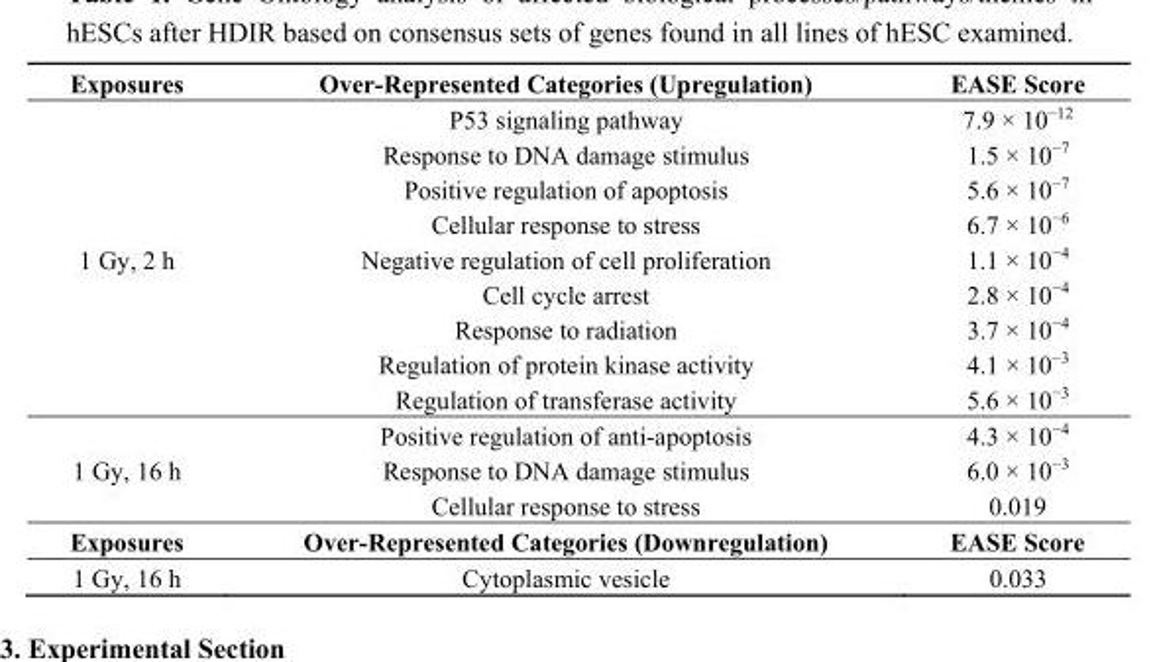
<table><thead><tr><td>Exposures</td><td>Over-Represented Categories (Upregulation)</td><td>EASE Score</td></tr></thead><tbody><tr><td rowspan="9">1 Gy, 2 h</td><td>P53 signaling pathway</td><td>7.9 × 10<sup>−12</sup></td></tr><tr><td>Response to DNA damage stimulus</td><td>1.5 × 10<sup>−7</sup></td></tr><tr><td>Positive regulation of apoptosis</td><td>5.6 × 10<sup>−7</sup></td></tr><tr><td>Cellular response to stress</td><td>6.7 × 10<sup>−6</sup></td></tr><tr><td>Negative regulation of cell proliferation</td><td>1.1 × 10<sup>−4</sup></td></tr><tr><td>Cell cycle arrest</td><td>2.8 × 10<sup>−4</sup></td></tr><tr><td>Response to radiation</td><td>3.7 × 10<sup>−4</sup></td></tr><tr><td>Regulation of protein kinase activity</td><td>4.1 × 10<sup>−3</sup></td></tr><tr><td>Regulation of transferase activity</td><td>5.6 × 10<sup>−3</sup></td></tr><tr><td rowspan="3">1 Gy, 16 h</td><td>Positive regulation of anti-apoptosis</td><td>4.3 × 10<sup>−4</sup></td></tr><tr><td>Response to DNA damage stimulus</td><td>6.0 × 10<sup>−3</sup></td></tr><tr><td>Cellular response to stress</td><td>0.019</td></tr><tr><td>Exposures</td><td>Over-Represented Categories (Downregulation)</td><td>EASE Score</td></tr><tr><td>1 Gy, 16 h</td><td>Cytoplasmic vesicle</td><td>0.033</td></tr></tbody></table>